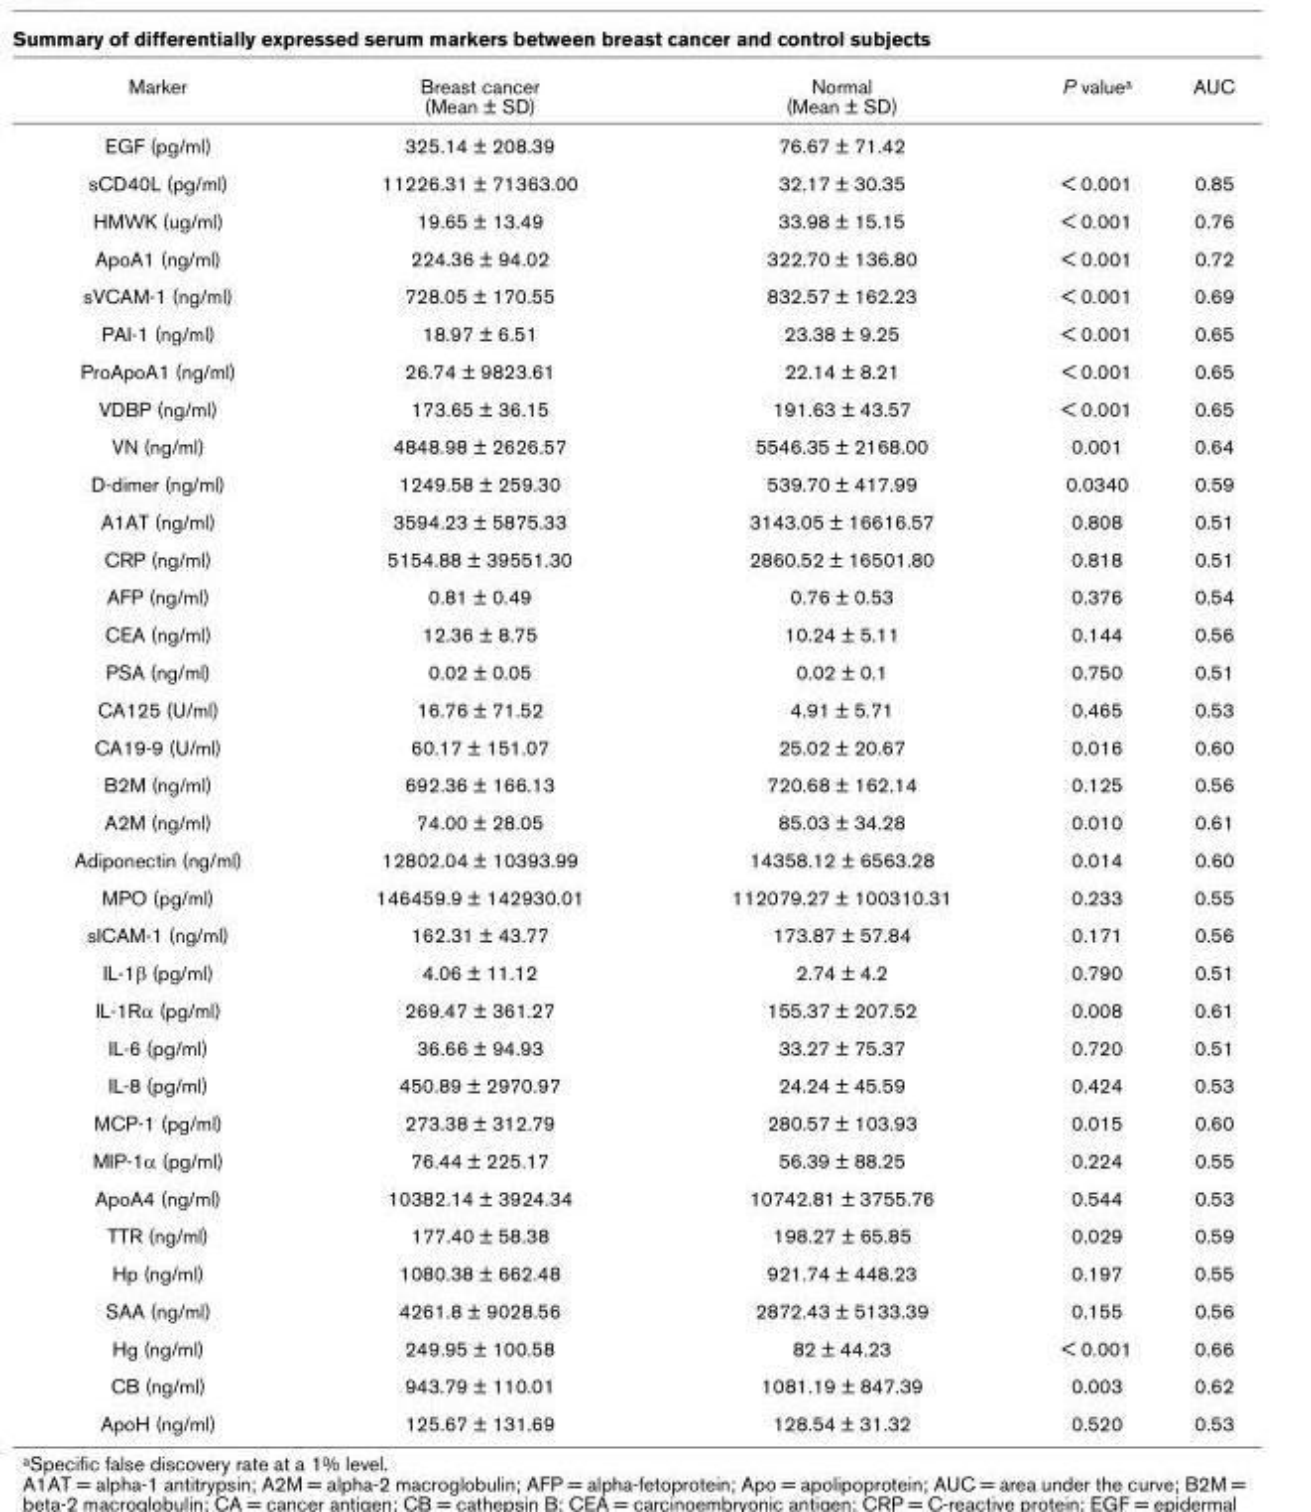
<table><thead><tr><td>Marker</td><td>Breast cancer (Mean ± SD)</td><td>Normal (Mean ± SD)</td><td>P value<sup>a</sup></td><td>AUC</td></tr></thead><tbody><tr><td>EGF (pg/ml)</td><td>325.14 ± 208.39</td><td>76.67 ± 71.42</td><td></td><td></td></tr><tr><td>sCD40L (pg/ml)</td><td>11226.31 ± 71363.00</td><td>32.17 ± 30.35</td><td>&lt; 0.001</td><td>0.85</td></tr><tr><td>HMWK (ug/ml)</td><td>19.65 ± 13.49</td><td>33.98 ± 15.15</td><td>&lt; 0.001</td><td>0.76</td></tr><tr><td>ApoA1 (ng/ml)</td><td>224.36 ± 94.02</td><td>322.70 ± 136.80</td><td>&lt; 0.001</td><td>0.72</td></tr><tr><td>sVCAM-1 (ng/ml)</td><td>728.05 ± 170.55</td><td>832.57 ± 162.23</td><td>&lt; 0.001</td><td>0.69</td></tr><tr><td>PAI-1 (ng/ml)</td><td>18.97 ± 6.51</td><td>23.38 ± 9.25</td><td>&lt; 0.001</td><td>0.65</td></tr><tr><td>ProApoA1 (ng/ml)</td><td>26.74 ± 9823.61</td><td>22.14 ± 8.21</td><td>&lt; 0.001</td><td>0.65</td></tr><tr><td>VDBP (ng/ml)</td><td>173.65 ± 36.15</td><td>191.63 ± 43.57</td><td>&lt; 0.001</td><td>0.65</td></tr><tr><td>VN (ng/ml)</td><td>4848.98 ± 2626.57</td><td>5546.35 ± 2168.00</td><td>0.001</td><td>0.64</td></tr><tr><td>D-dimer (ng/ml)</td><td>1249.58 ± 259.30</td><td>539.70 ± 417.99</td><td>0.0340</td><td>0.59</td></tr><tr><td>A1AT (ng/ml)</td><td>3594.23 ± 5875.33</td><td>3143.05 ± 16616.57</td><td>0.808</td><td>0.51</td></tr><tr><td>CRP (ng/ml)</td><td>5154.88 ± 39551.30</td><td>2860.52 ± 16501.80</td><td>0.818</td><td>0.51</td></tr><tr><td>AFP (ng/ml)</td><td>0.81 ± 0.49</td><td>0.76 ± 0.53</td><td>0.376</td><td>0.54</td></tr><tr><td>CEA (ng/ml)</td><td>12.36 ± 8.75</td><td>10.24 ± 5.11</td><td>0.144</td><td>0.56</td></tr><tr><td>PSA (ng/ml)</td><td>0.02 ± 0.05</td><td>0.02 ± 0.1</td><td>0.750</td><td>0.51</td></tr><tr><td>CA125 (U/ml)</td><td>16.76 ± 71.52</td><td>4.91 ± 5.71</td><td>0.465</td><td>0.53</td></tr><tr><td>CA19-9 (U/ml)</td><td>60.17 ± 151.07</td><td>25.02 ± 20.67</td><td>0.016</td><td>0.60</td></tr><tr><td>B2M (ng/ml)</td><td>692.36 ± 166.13</td><td>720.68 ± 162.14</td><td>0.125</td><td>0.56</td></tr><tr><td>A2M (ng/ml)</td><td>74.00 ± 28.05</td><td>85.03 ± 34.28</td><td>0.010</td><td>0.61</td></tr><tr><td>Adiponectin (ng/ml)</td><td>12802.04 ± 10393.99</td><td>14358.12 ± 6563.28</td><td>0.014</td><td>0.60</td></tr><tr><td>MPO (pg/ml)</td><td>146459.9 ± 142930.01</td><td>112079.27 ± 100310.31</td><td>0.233</td><td>0.55</td></tr><tr><td>sICAM-1 (ng/ml)</td><td>162.31 ± 43.77</td><td>173.87 ± 57.84</td><td>0.171</td><td>0.56</td></tr><tr><td>IL-1β (pg/ml)</td><td>4.06 ± 11.12</td><td>2.74 ± 4.2</td><td>0.790</td><td>0.51</td></tr><tr><td>IL-1Rα (pg/ml)</td><td>269.47 ± 361.27</td><td>155.37 ± 207.52</td><td>0.008</td><td>0.61</td></tr><tr><td>IL-6 (pg/ml)</td><td>36.66 ± 94.93</td><td>33.27 ± 75.37</td><td>0.720</td><td>0.51</td></tr><tr><td>IL-8 (pg/ml)</td><td>450.89 ± 2970.97</td><td>24.24 ± 45.59</td><td>0.424</td><td>0.53</td></tr><tr><td>MCP-1 (pg/ml)</td><td>273.38 ± 312.79</td><td>280.57 ± 103.93</td><td>0.015</td><td>0.60</td></tr><tr><td>MIP-1α (pg/ml)</td><td>76.44 ± 225.17</td><td>56.39 ± 88.25</td><td>0.224</td><td>0.55</td></tr><tr><td>ApoA4 (ng/ml)</td><td>10382.14 ± 3924.34</td><td>10742.81 ± 3755.76</td><td>0.544</td><td>0.53</td></tr><tr><td>TTR (ng/ml)</td><td>177.40 ± 58.38</td><td>198.27 ± 65.85</td><td>0.029</td><td>0.59</td></tr><tr><td>Hp (ng/ml)</td><td>1080.38 ± 662.48</td><td>921.74 ± 448.23</td><td>0.197</td><td>0.55</td></tr><tr><td>SAA (ng/ml)</td><td>4261.8 ± 9028.56</td><td>2872.43 ± 5133.39</td><td>0.155</td><td>0.56</td></tr><tr><td>Hg (ng/ml)</td><td>249.95 ± 100.58</td><td>82 ± 44.23</td><td>&lt; 0.001</td><td>0.66</td></tr><tr><td>CB (ng/ml)</td><td>943.79 ± 110.01</td><td>1081.19 ± 847.39</td><td>0.003</td><td>0.62</td></tr><tr><td>ApoH (ng/ml)</td><td>125.67 ± 131.69</td><td>128.54 ± 31.32</td><td>0.520</td><td>0.53</td></tr></tbody></table>